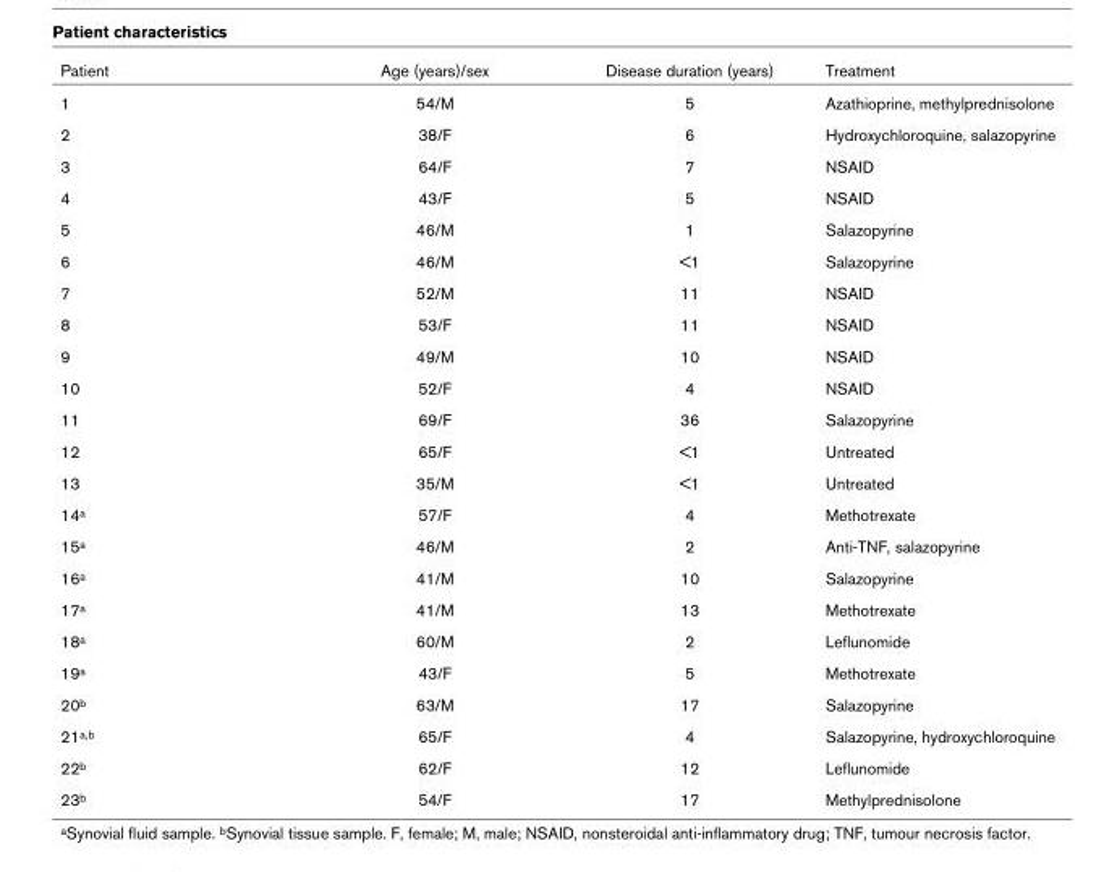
<table><thead><tr><td>Patient</td><td>Age (years)/sex</td><td>Disease duration (years)</td><td>Treatment</td></tr></thead><tbody><tr><td>1</td><td>54/M</td><td>5</td><td>Azathioprine, methylprednisolone</td></tr><tr><td>2</td><td>38/F</td><td>6</td><td>Hydroxychloroquine, salazopyrine</td></tr><tr><td>3</td><td>64/F</td><td>7</td><td>NSAID</td></tr><tr><td>4</td><td>43/F</td><td>5</td><td>NSAID</td></tr><tr><td>5</td><td>46/M</td><td>1</td><td>Salazopyrine</td></tr><tr><td>6</td><td>46/M</td><td>&lt;1</td><td>Salazopyrine</td></tr><tr><td>7</td><td>52/M</td><td>11</td><td>NSAID</td></tr><tr><td>8</td><td>53/F</td><td>11</td><td>NSAID</td></tr><tr><td>9</td><td>49/M</td><td>10</td><td>NSAID</td></tr><tr><td>10</td><td>52/F</td><td>4</td><td>NSAID</td></tr><tr><td>11</td><td>69/F</td><td>36</td><td>Salazopyrine</td></tr><tr><td>12</td><td>65/F</td><td>&lt;1</td><td>Untreated</td></tr><tr><td>13</td><td>35/M</td><td>&lt;1</td><td>Untreated</td></tr><tr><td>14a</td><td>57/F</td><td>4</td><td>Methotrexate</td></tr><tr><td>15a</td><td>46/M</td><td>2</td><td>Anti-TNF, salazopyrine</td></tr><tr><td>16a</td><td>41/M</td><td>10</td><td>Salazopyrine</td></tr><tr><td>17a</td><td>41/M</td><td>13</td><td>Methotrexate</td></tr><tr><td>18a</td><td>60/M</td><td>2</td><td>Leflunomide</td></tr><tr><td>19a</td><td>43/F</td><td>5</td><td>Methotrexate</td></tr><tr><td>20b</td><td>63/M</td><td>17</td><td>Salazopyrine</td></tr><tr><td>21a,b</td><td>65/F</td><td>4</td><td>Salazopyrine, hydroxychloroquine</td></tr><tr><td>22b</td><td>62/F</td><td>12</td><td>Leflunomide</td></tr><tr><td>23b</td><td>54/F</td><td>17</td><td>Methylprednisolone</td></tr></tbody></table>